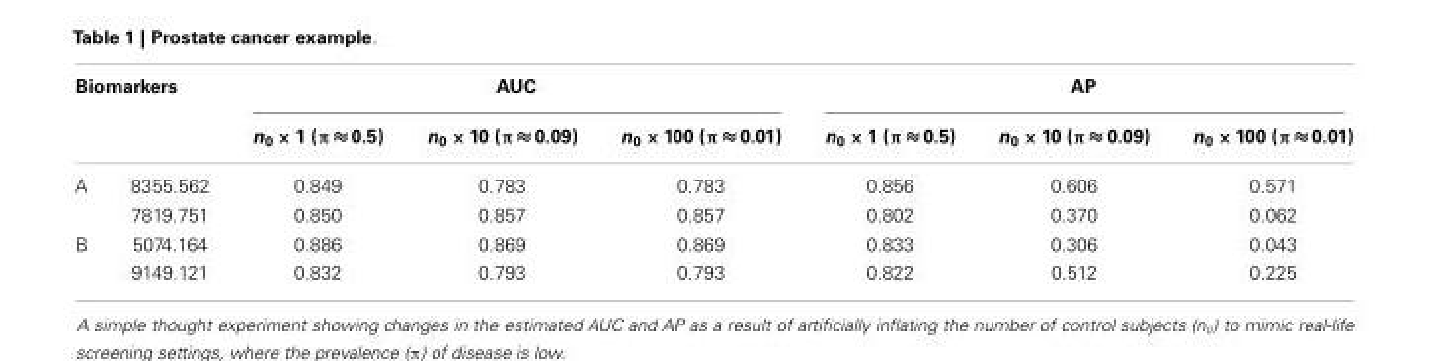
<table><thead><tr><td colspan="2">Biomarkers</td><td colspan="3">AUC</td><td colspan="3">AP</td></tr><tr><td></td><td></td><td>n<sub>0</sub> × 1 (π ≈ 0.5)</td><td>n<sub>0</sub> × 10 (π ≈ 0.09)</td><td>n<sub>0</sub> × 100 (π ≈ 0.01)</td><td>n<sub>0</sub> × 1 (π ≈ 0.5)</td><td>n<sub>0</sub> × 10 (π ≈ 0.09)</td><td>n<sub>0</sub> × 100 (π ≈ 0.01)</td></tr></thead><tbody><tr><td rowspan="2">A</td><td>8355.562</td><td>0.849</td><td>0.783</td><td>0.783</td><td>0.856</td><td>0.606</td><td>0.571</td></tr><tr><td>7819.751</td><td>0.850</td><td>0.857</td><td>0.857</td><td>0.802</td><td>0.370</td><td>0.062</td></tr><tr><td rowspan="2">B</td><td>5074.164</td><td>0.886</td><td>0.869</td><td>0.869</td><td>0.833</td><td>0.306</td><td>0.043</td></tr><tr><td>9149.121</td><td>0.832</td><td>0.793</td><td>0.793</td><td>0.822</td><td>0.512</td><td>0.225</td></tr></tbody></table>